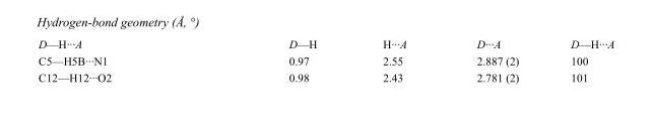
<table><tbody><tr><td>D—H···A</td><td>D—H</td><td>H···A</td><td>D···A</td><td>D—H···A</td></tr><tr><td>C5—H5B···N1</td><td>0.97</td><td>2.55</td><td>2.887 (2)</td><td>100</td></tr><tr><td>C12—H12···O2</td><td>0.98</td><td>2.43</td><td>2.781 (2)</td><td>101</td></tr></tbody></table>